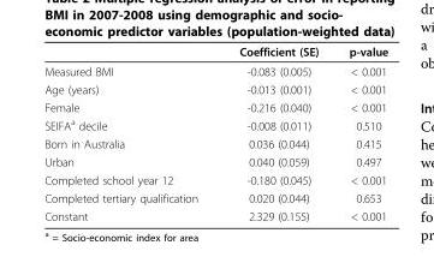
<table><thead><tr><td></td><td>Coefficient (SE)</td><td>p-value</td></tr></thead><tbody><tr><td>Measured BMI</td><td>-0.083 (0.005)</td><td>&lt; 0.001</td></tr><tr><td>Age (years)</td><td>-0.013 (0.001)</td><td>&lt; 0.001</td></tr><tr><td>Female</td><td>-0.216 (0.040)</td><td>&lt; 0.001</td></tr><tr><td>SEIFA<sup>a</sup> decile</td><td>-0.008 (0.011)</td><td>0.510</td></tr><tr><td>Born in Australia</td><td>0.036 (0.044)</td><td>0.415</td></tr><tr><td>Urban</td><td>0.040 (0.059)</td><td>0.497</td></tr><tr><td>Completed school year 12</td><td>-0.180 (0.045)</td><td>&lt; 0.001</td></tr><tr><td>Completed tertiary qualification</td><td>0.020 (0.044)</td><td>0.653</td></tr><tr><td>Constant</td><td>2.329 (0.155)</td><td>&lt; 0.001</td></tr></tbody></table>